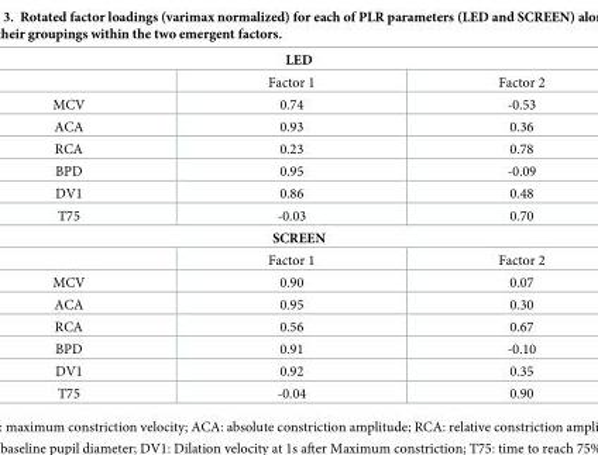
<table><tbody><tr><td colspan="3">LED</td></tr><tr><td></td><td>Factor 1</td><td>Factor 2</td></tr><tr><td>MCV</td><td>0.74</td><td>-0.53</td></tr><tr><td>ACA</td><td>0.93</td><td>0.36</td></tr><tr><td>RCA</td><td>0.23</td><td>0.78</td></tr><tr><td>BPD</td><td>0.95</td><td>-0.09</td></tr><tr><td>DV1</td><td>0.86</td><td>0.48</td></tr><tr><td>T75</td><td>-0.03</td><td>0.70</td></tr><tr><td colspan="3">SCREEN</td></tr><tr><td></td><td>Factor 1</td><td>Factor 2</td></tr><tr><td>MCV</td><td>0.90</td><td>0.07</td></tr><tr><td>ACA</td><td>0.95</td><td>0.30</td></tr><tr><td>RCA</td><td>0.56</td><td>0.67</td></tr><tr><td>BPD</td><td>0.91</td><td>-0.10</td></tr><tr><td>DV1</td><td>0.92</td><td>0.35</td></tr><tr><td>T75</td><td>-0.04</td><td>0.90</td></tr></tbody></table>